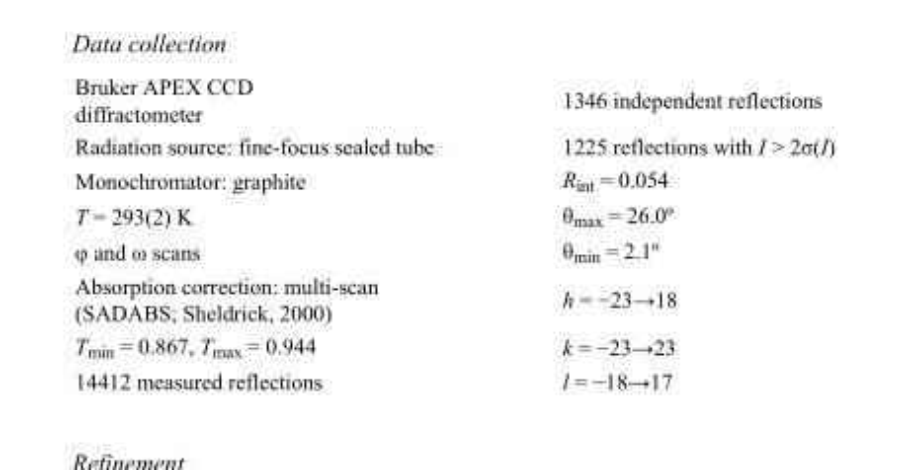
<table><tbody><tr><td>Bruker APEX CCD diffractometer</td><td>1346 independent reflections</td></tr><tr><td>Radiation source: fine-focus sealed tube</td><td>1225 reflections with I &gt; 2σ(I)</td></tr><tr><td>Monochromator: graphite</td><td>R<sub>int</sub> = 0.054</td></tr><tr><td>T = 293(2) K</td><td>θ<sub>max</sub> = 26.0º</td></tr><tr><td>φ and ω scans</td><td>θ<sub>min</sub> = 2.1º</td></tr><tr><td>Absorption correction: multi-scan (SADABS; Sheldrick, 2000)</td><td>h = −23→18</td></tr><tr><td>T<sub>min</sub> = 0.867, T<sub>max</sub> = 0.944</td><td>k = −23→23</td></tr><tr><td>14412 measured reflections</td><td>l = −18→17</td></tr></tbody></table>